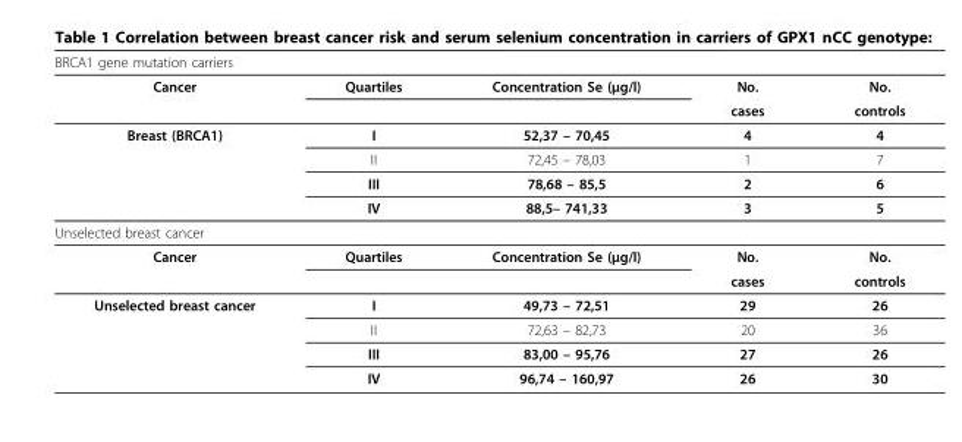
<table><thead><tr><td colspan="5">BRCA1 gene mutation carriers</td></tr><tr><td>Cancer</td><td>Quartiles</td><td>Concentration Se (µg/l)</td><td>No.</td><td>No.</td></tr></thead><tbody><tr><td></td><td></td><td></td><td>cases</td><td>controls</td></tr><tr><td rowspan="4">Breast (BRCA1)</td><td>I</td><td>52,37 – 70,45</td><td>4</td><td>4</td></tr><tr><td>II</td><td>72,45 – 78,03</td><td>1</td><td>7</td></tr><tr><td>III</td><td>78,68 – 85,5</td><td>2</td><td>6</td></tr><tr><td>IV</td><td>88,5– 741,33</td><td>3</td><td>5</td></tr><tr><td colspan="5">Unselected breast cancer</td></tr><tr><td rowspan="2">Cancer</td><td>Quartiles</td><td>Concentration Se (µg/l)</td><td>No.</td><td>No.</td></tr><tr><td></td><td></td><td>cases</td><td>controls</td></tr><tr><td rowspan="4">Unselected breast cancer</td><td>I</td><td>49,73 – 72,51</td><td>29</td><td>26</td></tr><tr><td>II</td><td>72,63 – 82,73</td><td>20</td><td>36</td></tr><tr><td>III</td><td>83,00 – 95,76</td><td>27</td><td>26</td></tr><tr><td>IV</td><td>96,74 – 160,97</td><td>26</td><td>30</td></tr></tbody></table>